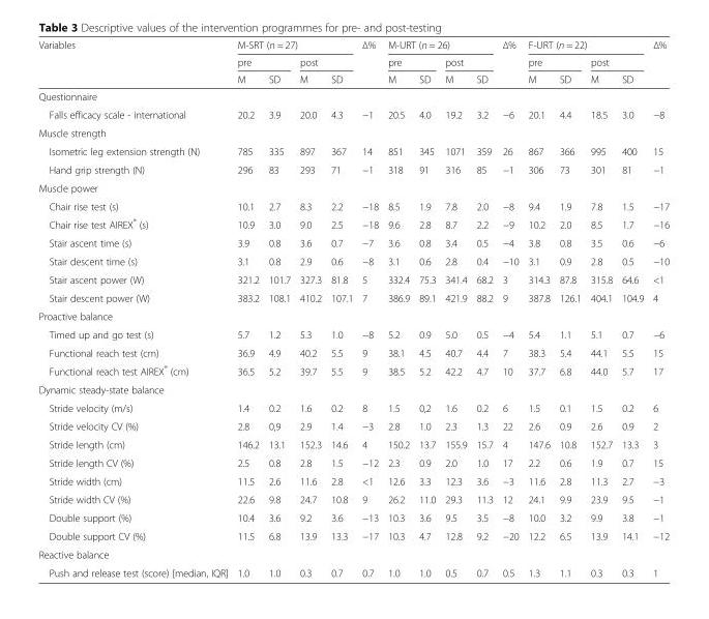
<table><thead><tr><td rowspan="3">Variables</td><td colspan="4">M-SRT (n = 27)</td><td rowspan="3">Δ%</td><td colspan="4">M-URT (n = 26)</td><td rowspan="3">Δ%</td><td colspan="4">F-URT (n = 22)</td><td rowspan="3">Δ%</td></tr><tr><td colspan="2">pre</td><td colspan="2">post</td><td colspan="2">pre</td><td colspan="2">post</td><td colspan="2">pre</td><td colspan="2">post</td></tr><tr><td>M</td><td>SD</td><td>M</td><td>SD</td><td>M</td><td>SD</td><td>M</td><td>SD</td><td>M</td><td>SD</td><td>M</td><td>SD</td></tr></thead><tbody><tr><td colspan="16">Questionnaire</td></tr><tr><td>Falls efficacy scale - international</td><td>20.2</td><td>3.9</td><td>20.0</td><td>4.3</td><td>−1</td><td>20.5</td><td>4.0</td><td>19.2</td><td>3.2</td><td>−6</td><td>20.1</td><td>4.4</td><td>18.5</td><td>3.0</td><td>−8</td></tr><tr><td colspan="16">Muscle strength</td></tr><tr><td>Isometric leg extension strength (N)</td><td>785</td><td>335</td><td>897</td><td>367</td><td>14</td><td>851</td><td>345</td><td>1071</td><td>359</td><td>26</td><td>867</td><td>366</td><td>995</td><td>400</td><td>15</td></tr><tr><td>Hand grip strength (N)</td><td>296</td><td>83</td><td>293</td><td>71</td><td>−1</td><td>318</td><td>91</td><td>316</td><td>85</td><td>−1</td><td>306</td><td>73</td><td>301</td><td>81</td><td>−1</td></tr><tr><td colspan="16">Muscle power</td></tr><tr><td>Chair rise test (s)</td><td>10.1</td><td>2.7</td><td>8.3</td><td>2.2</td><td>−18</td><td>8.5</td><td>1.9</td><td>7.8</td><td>2.0</td><td>−8</td><td>9.4</td><td>1.9</td><td>7.8</td><td>1.5</td><td>−17</td></tr><tr><td>Chair rise test AIREX<sup>®</sup> (s)</td><td>10.9</td><td>3.0</td><td>9.0</td><td>2.5</td><td>−18</td><td>9.6</td><td>2.8</td><td>8.7</td><td>2.2</td><td>−9</td><td>10.2</td><td>2.0</td><td>8.5</td><td>1.7</td><td>−16</td></tr><tr><td>Stair ascent time (s)</td><td>3.9</td><td>0.8</td><td>3.6</td><td>0.7</td><td>−7</td><td>3.6</td><td>0.8</td><td>3.4</td><td>0.5</td><td>−4</td><td>3.8</td><td>0.8</td><td>3.5</td><td>0.6</td><td>−6</td></tr><tr><td>Stair descent time (s)</td><td>3.1</td><td>0.8</td><td>2.9</td><td>0.6</td><td>−8</td><td>3.1</td><td>0.6</td><td>2.8</td><td>0.4</td><td>−10</td><td>3.1</td><td>0.9</td><td>2.8</td><td>0.5</td><td>−10</td></tr><tr><td>Stair ascent power (W)</td><td>321.2</td><td>101.7</td><td>327.3</td><td>81.8</td><td>5</td><td>332.4</td><td>75.3</td><td>341.4</td><td>68.2</td><td>3</td><td>314.3</td><td>87.8</td><td>315.8</td><td>64.6</td><td>&lt;1</td></tr><tr><td>Stair descent power (W)</td><td>383.2</td><td>108.1</td><td>410.2</td><td>107.1</td><td>7</td><td>386.9</td><td>89.1</td><td>421.9</td><td>88.2</td><td>9</td><td>387.8</td><td>126.1</td><td>404.1</td><td>104.9</td><td>4</td></tr><tr><td colspan="16">Proactive balance</td></tr><tr><td>Timed up and go test (s)</td><td>5.7</td><td>1.2</td><td>5.3</td><td>1.0</td><td>−8</td><td>5.2</td><td>0.9</td><td>5.0</td><td>0.5</td><td>−4</td><td>5.4</td><td>1.1</td><td>5.1</td><td>0.7</td><td>−6</td></tr><tr><td>Functional reach test (cm)</td><td>36.9</td><td>4.9</td><td>40.2</td><td>5.5</td><td>9</td><td>38.1</td><td>4.5</td><td>40.7</td><td>4.4</td><td>7</td><td>38.3</td><td>5.4</td><td>44.1</td><td>5.5</td><td>15</td></tr><tr><td>Functional reach test AIREX<sup>®</sup> (cm)</td><td>36.5</td><td>5.2</td><td>39.7</td><td>5.5</td><td>9</td><td>38.5</td><td>5.2</td><td>42.2</td><td>4.7</td><td>10</td><td>37.7</td><td>6.8</td><td>44.0</td><td>5.7</td><td>17</td></tr><tr><td colspan="16">Dynamic steady-state balance</td></tr><tr><td>Stride velocity (m/s)</td><td>1.4</td><td>0.2</td><td>1.6</td><td>0.2</td><td>8</td><td>1.5</td><td>0,2</td><td>1.6</td><td>0.2</td><td>6</td><td>1.5</td><td>0.1</td><td>1.5</td><td>0.2</td><td>6</td></tr><tr><td>Stride velocity CV (%)</td><td>2.8</td><td>0,9</td><td>2.9</td><td>1.4</td><td>−3</td><td>2.8</td><td>1.0</td><td>2.3</td><td>1.3</td><td>22</td><td>2.6</td><td>0.9</td><td>2.6</td><td>0.9</td><td>2</td></tr><tr><td>Stride length (cm)</td><td>146.2</td><td>13.1</td><td>152.3</td><td>14.6</td><td>4</td><td>150.2</td><td>13.7</td><td>155.9</td><td>15.7</td><td>4</td><td>147.6</td><td>10.8</td><td>152.7</td><td>13.3</td><td>3</td></tr><tr><td>Stride length CV (%)</td><td>2.5</td><td>0.8</td><td>2.8</td><td>1.5</td><td>−12</td><td>2.3</td><td>0.9</td><td>2.0</td><td>1.0</td><td>17</td><td>2.2</td><td>0.6</td><td>1.9</td><td>0.7</td><td>15</td></tr><tr><td>Stride width (cm)</td><td>11.5</td><td>2.6</td><td>11.6</td><td>2.8</td><td>&lt;1</td><td>12.6</td><td>3.3</td><td>12.3</td><td>3.6</td><td>−3</td><td>11.6</td><td>2.8</td><td>11.3</td><td>2.7</td><td>−3</td></tr><tr><td>Stride width CV (%)</td><td>22.6</td><td>9.8</td><td>24.7</td><td>10.8</td><td>9</td><td>26.2</td><td>11.0</td><td>29.3</td><td>11.3</td><td>12</td><td>24.1</td><td>9.9</td><td>23.9</td><td>9.5</td><td>−1</td></tr><tr><td>Double support (%)</td><td>10.4</td><td>3.6</td><td>9.2</td><td>3.6</td><td>−13</td><td>10.3</td><td>3.6</td><td>9.5</td><td>3.5</td><td>−8</td><td>10.0</td><td>3.2</td><td>9.9</td><td>3.8</td><td>−1</td></tr><tr><td>Double support CV (%)</td><td>11.5</td><td>6.8</td><td>13.9</td><td>13.3</td><td>−17</td><td>10.3</td><td>4.7</td><td>12.8</td><td>9.2</td><td>−20</td><td>12.2</td><td>6.5</td><td>13.9</td><td>14.1</td><td>−12</td></tr><tr><td colspan="16">Reactive balance</td></tr><tr><td>Push and release test (score) [median, IQR]</td><td>1.0</td><td>1.0</td><td>0.3</td><td>0.7</td><td>0.7</td><td>1.0</td><td>1.0</td><td>0.5</td><td>0.7</td><td>0.5</td><td>1.3</td><td>1.1</td><td>0.3</td><td>0.3</td><td>1</td></tr></tbody></table>